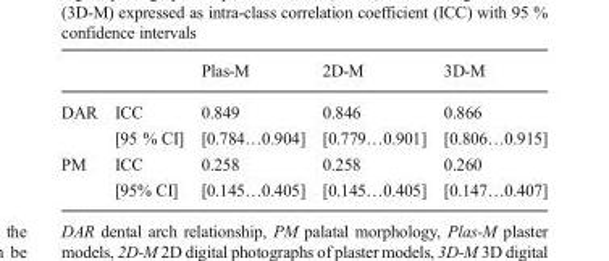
<table><thead><tr><td></td><td></td><td>Plas-M</td><td>2D-M</td><td>3D-M</td></tr></thead><tbody><tr><td rowspan="2">DAR</td><td>ICC</td><td>0.849</td><td>0.846</td><td>0.866</td></tr><tr><td>[95 % CI]</td><td>[0.784…0.904]</td><td>[0.779…0.901]</td><td>[0.806…0.915]</td></tr><tr><td rowspan="2">PM</td><td>ICC</td><td>0.258</td><td>0.258</td><td>0.260</td></tr><tr><td>[95% CI]</td><td>[0.145…0.405]</td><td>[0.145…0.405]</td><td>[0.147…0.407]</td></tr></tbody></table>